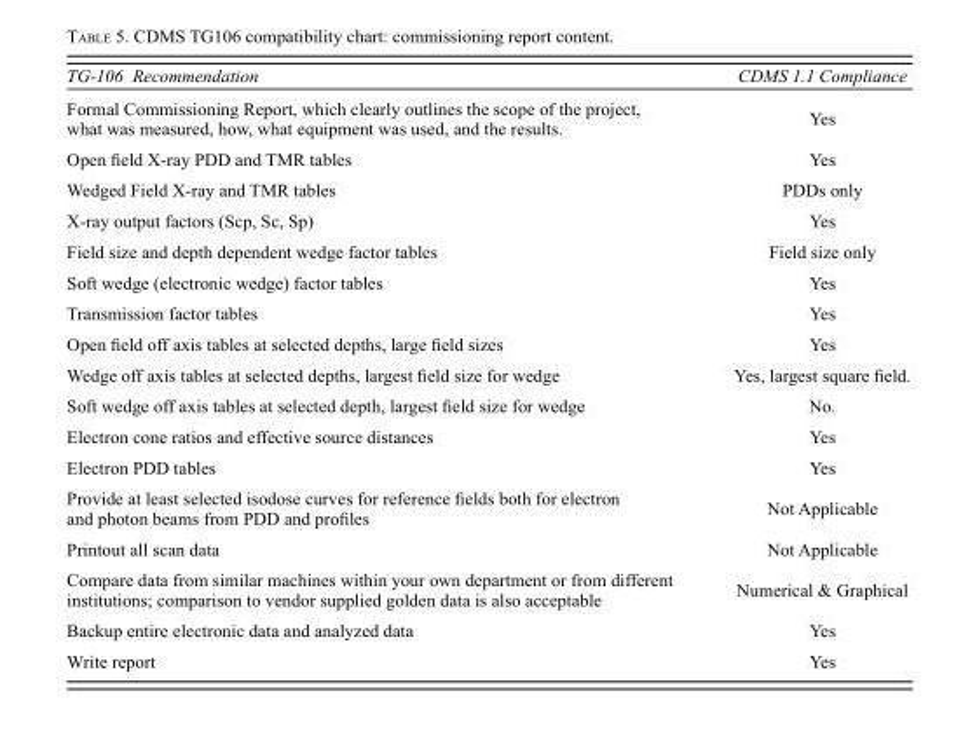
<table><thead><tr><td>TG-106 Recommendation</td><td>CDMS 1.1 Compliance</td></tr></thead><tbody><tr><td>Formal Commissioning Report, which clearly outlines the scope of the project, what was measured, how, what equipment was used, and the results.</td><td>Yes</td></tr><tr><td>Open field X-ray PDD and TMR tables</td><td>Yes</td></tr><tr><td>Wedged Field X-ray and TMR tables</td><td>PDDs only</td></tr><tr><td>X-ray output factors (Scp, Sc, Sp)</td><td>Yes</td></tr><tr><td>Field size and depth dependent wedge factor tables</td><td>Field size only</td></tr><tr><td>Soft wedge (electronic wedge) factor tables</td><td>Yes</td></tr><tr><td>Transmission factor tables</td><td>Yes</td></tr><tr><td>Open field off axis tables at selected depths, large field sizes</td><td>Yes</td></tr><tr><td>Wedge off axis tables at selected depths, largest field size for wedge</td><td>Yes, largest square field.</td></tr><tr><td>Soft wedge off axis tables at selected depth, largest field size for wedge</td><td>No.</td></tr><tr><td>Electron cone ratios and effective source distances</td><td>Yes</td></tr><tr><td>Electron PDD tables</td><td>Yes</td></tr><tr><td>Provide at least selected isodose curves for reference fields both for electron and photon beams from PDD and profiles</td><td>Not Applicable</td></tr><tr><td>Printout all scan data</td><td>Not Applicable</td></tr><tr><td>Compare data from similar machines within your own department or from different institutions; comparison to vendor supplied golden data is also acceptable</td><td>Numerical &amp; Graphical</td></tr><tr><td>Backup entire electronic data and analyzed data</td><td>Yes</td></tr><tr><td>Write report</td><td>Yes</td></tr></tbody></table>